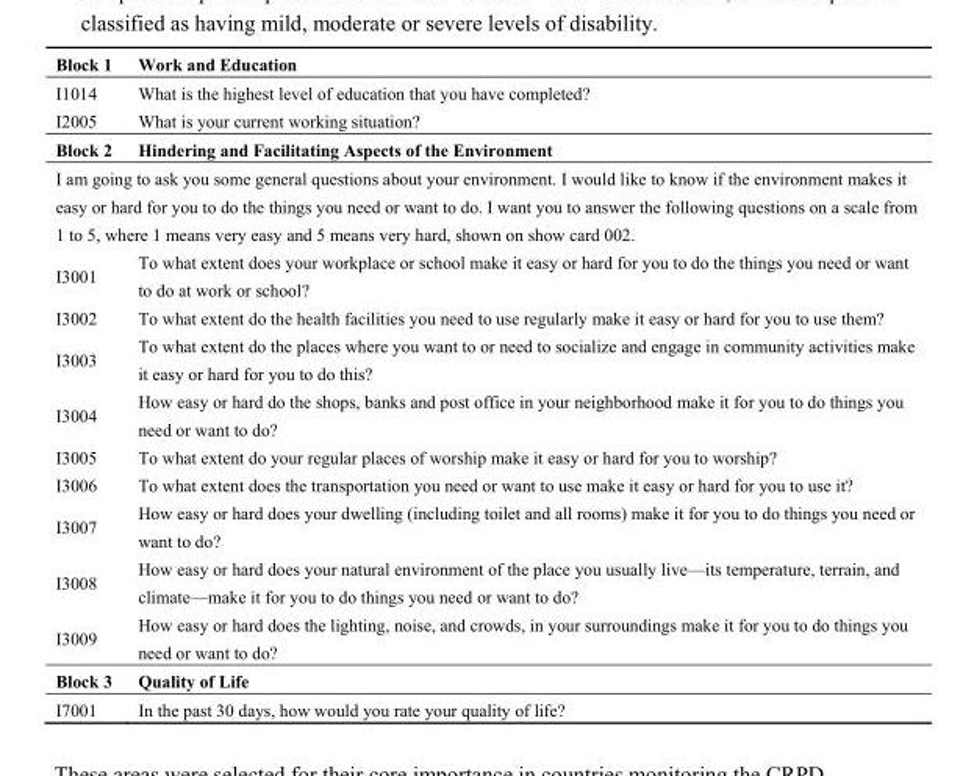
<table><tbody><tr><td>Block 1</td><td>Work and Education</td></tr><tr><td>I1014</td><td>What is the highest level of education that you have completed?</td></tr><tr><td>I2005</td><td>What is your current working situation?</td></tr><tr><td>Block 2</td><td>Hindering and Facilitating Aspects of the Environment</td></tr><tr><td colspan="2">I am going to ask you some general questions about your environment. I would like to know if the environment makes it easy or hard for you to do the things you need or want to do. I want you to answer the following questions on a scale from 1 to 5, where 1 means very easy and 5 means very hard, shown on show card 002.</td></tr><tr><td>I3001</td><td>To what extent does your workplace or school make it easy or hard for you to do the things you need or want to do at work or school?</td></tr><tr><td>I3002</td><td>To what extent do the health facilities you need to use regularly make it easy or hard for you to use them?</td></tr><tr><td>I3003</td><td>To what extent do the places where you want to or need to socialize and engage in community activities make it easy or hard for you to do this?</td></tr><tr><td>I3004</td><td>How easy or hard do the shops, banks and post office in your neighborhood make it for you to do things you need or want to do?</td></tr><tr><td>I3005</td><td>To what extent do your regular places of worship make it easy or hard for you to worship?</td></tr><tr><td>I3006</td><td>To what extent does the transportation you need or want to use make it easy or hard for you to use it?</td></tr><tr><td>I3007</td><td>How easy or hard does your dwelling (including toilet and all rooms) make it for you to do things you need or want to do?</td></tr><tr><td>I3008</td><td>How easy or hard does your natural environment of the place you usually live—its temperature, terrain, and climate—make it for you to do things you need or want to do?</td></tr><tr><td>I3009</td><td>How easy or hard does the lighting, noise, and crowds, in your surroundings make it for you to do things you need or want to do?</td></tr><tr><td>Block 3</td><td>Quality of Life</td></tr><tr><td>I7001</td><td>In the past 30 days, how would you rate your quality of life?</td></tr></tbody></table>